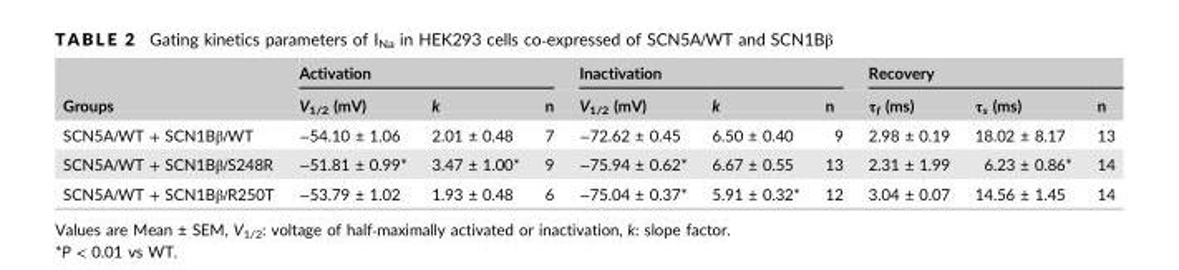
<table><thead><tr><td rowspan="2">Groups</td><td colspan="3">Activation</td><td colspan="3">Inactivation</td><td colspan="3">Recovery</td></tr><tr><td>V<sub>1/2</sub> (mV)</td><td>k</td><td>n</td><td>V<sub>1/2</sub> (mV)</td><td>k</td><td>n</td><td>τ<sub>f</sub> (ms)</td><td>τ<sub>s</sub> (ms)</td><td>n</td></tr></thead><tbody><tr><td>SCN5A/WT + SCN1Bβ/WT</td><td>−54.10 ± 1.06</td><td>2.01 ± 0.48</td><td>7</td><td>−72.62 ± 0.45</td><td>6.50 ± 0.40</td><td>9</td><td>2.98 ± 0.19</td><td>18.02 ± 8.17</td><td>13</td></tr><tr><td>SCN5A/WT + SCN1Bβ/S248R</td><td>−51.81 ± 0.99*</td><td>3.47 ± 1.00*</td><td>9</td><td>−75.94 ± 0.62*</td><td>6.67 ± 0.55</td><td>13</td><td>2.31 ± 1.99</td><td>6.23 ± 0.86*</td><td>14</td></tr><tr><td>SCN5A/WT + SCN1Bβ/R250T</td><td>−53.79 ± 1.02</td><td>1.93 ± 0.48</td><td>6</td><td>−75.04 ± 0.37*</td><td>5.91 ± 0.32*</td><td>12</td><td>3.04 ± 0.07</td><td>14.56 ± 1.45</td><td>14</td></tr></tbody></table>